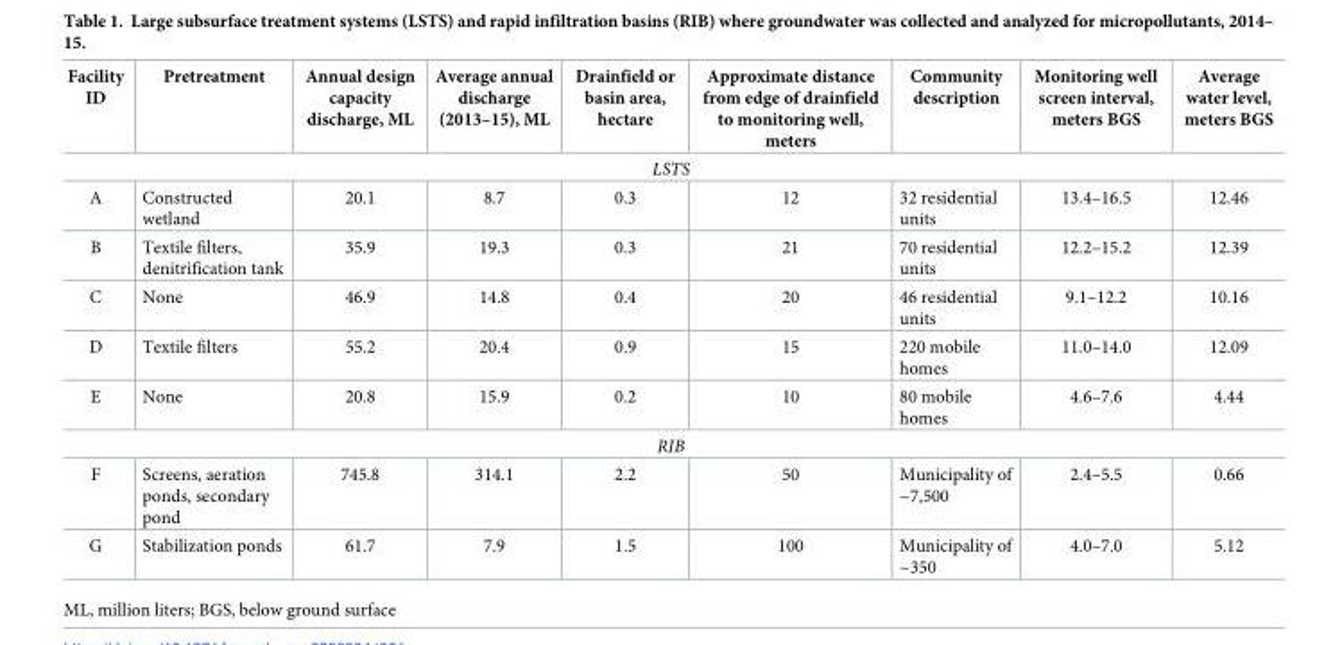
<table><thead><tr><td>Facility ID</td><td>Pretreatment</td><td>Annual design capacity discharge, ML</td><td>Average annual discharge (2013–15), ML</td><td>Drainfield or basin area, hectare</td><td>Approximate distance from edge of drainfield to monitoring well, meters</td><td>Community description</td><td>Monitoring well screen interval, meters BGS</td><td>Average water level, meters BGS</td></tr></thead><tbody><tr><td colspan="9">LSTS</td></tr><tr><td>A</td><td>Constructed wetland</td><td>20.1</td><td>8.7</td><td>0.3</td><td>12</td><td>32 residential units</td><td>13.4–16.5</td><td>12.46</td></tr><tr><td>B</td><td>Textile filters, denitrification tank</td><td>35.9</td><td>19.3</td><td>0.3</td><td>21</td><td>70 residential units</td><td>12.2–15.2</td><td>12.39</td></tr><tr><td>C</td><td>None</td><td>46.9</td><td>14.8</td><td>0.4</td><td>20</td><td>46 residential units</td><td>9.1–12.2</td><td>10.16</td></tr><tr><td>D</td><td>Textile filters</td><td>55.2</td><td>20.4</td><td>0.9</td><td>15</td><td>220 mobile homes</td><td>11.0–14.0</td><td>12.09</td></tr><tr><td>E</td><td>None</td><td>20.8</td><td>15.9</td><td>0.2</td><td>10</td><td>80 mobile homes</td><td>4.6–7.6</td><td>4.44</td></tr><tr><td colspan="9">RIB</td></tr><tr><td>F</td><td>Screens, aeration ponds, secondary pond</td><td>745.8</td><td>314.1</td><td>2.2</td><td>50</td><td>Municipality of ~7,500</td><td>2.4–5.5</td><td>0.66</td></tr><tr><td>G</td><td>Stabilization ponds</td><td>61.7</td><td>7.9</td><td>1.5</td><td>100</td><td>Municipality of ~350</td><td>4.0–7.0</td><td>5.12</td></tr></tbody></table>